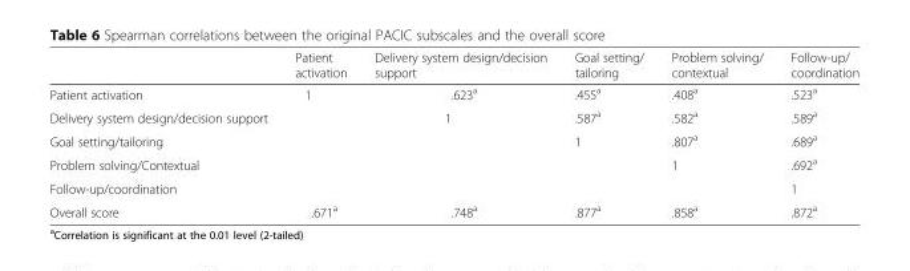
<table><thead><tr><td></td><td>Patient activation</td><td>Delivery system design/decision support</td><td>Goal setting/ tailoring</td><td>Problem solving/ contextual</td><td>Follow-up/ coordination</td></tr></thead><tbody><tr><td>Patient activation</td><td>1</td><td>.623<sup>a</sup></td><td>.455<sup>a</sup></td><td>.408<sup>a</sup></td><td>.523<sup>a</sup></td></tr><tr><td>Delivery system design/decision support</td><td></td><td>1</td><td>.587<sup>a</sup></td><td>.582<sup>a</sup></td><td>.589<sup>a</sup></td></tr><tr><td>Goal setting/tailoring</td><td></td><td></td><td>1</td><td>.807<sup>a</sup></td><td>.689<sup>a</sup></td></tr><tr><td>Problem solving/Contextual</td><td></td><td></td><td></td><td>1</td><td>.692<sup>a</sup></td></tr><tr><td>Follow-up/coordination</td><td></td><td></td><td></td><td></td><td>1</td></tr><tr><td>Overall score</td><td>.671<sup>a</sup></td><td>.748<sup>a</sup></td><td>.877<sup>a</sup></td><td>.858<sup>a</sup></td><td>.872<sup>a</sup></td></tr></tbody></table>